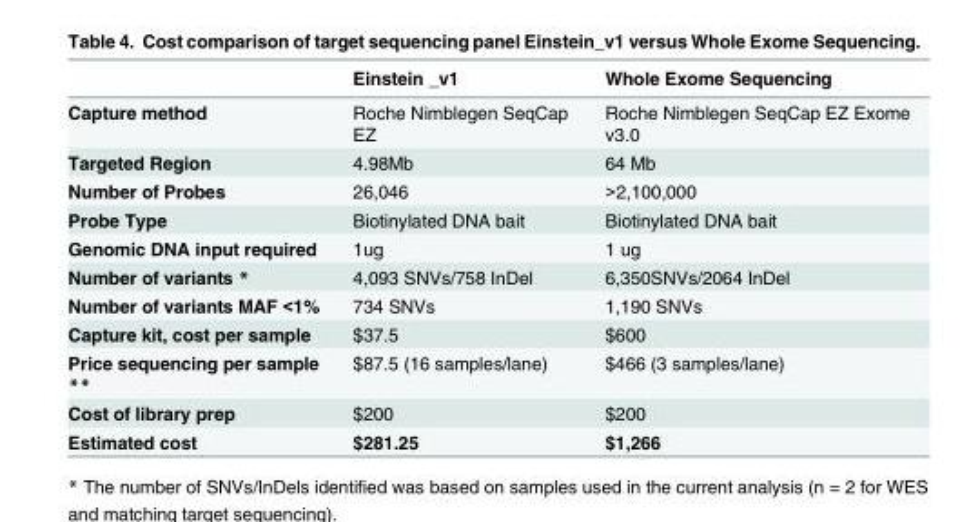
<table><thead><tr><td></td><td>Einstein _v1</td><td>Whole Exome Sequencing</td></tr></thead><tbody><tr><td>Capture method</td><td>Roche Nimblegen SeqCap EZ</td><td>Roche Nimblegen SeqCap EZ Exome v3.0</td></tr><tr><td>Targeted Region</td><td>4.98Mb</td><td>64 Mb</td></tr><tr><td>Number of Probes</td><td>26,046</td><td>&gt;2,100,000</td></tr><tr><td>Probe Type</td><td>Biotinylated DNA bait</td><td>Biotinylated DNA bait</td></tr><tr><td>Genomic DNA input required</td><td>1ug</td><td>1 ug</td></tr><tr><td>Number of variants *</td><td>4,093 SNVs/758 InDel</td><td>6,350SNVs/2064 InDel</td></tr><tr><td>Number of variants MAF &lt;1%</td><td>734 SNVs</td><td>1,190 SNVs</td></tr><tr><td>Capture kit, cost per sample</td><td>$37.5</td><td>$600</td></tr><tr><td>Price sequencing per sample **</td><td>$87.5 (16 samples/lane)</td><td>$466 (3 samples/lane)</td></tr><tr><td>Cost of library prep</td><td>$200</td><td>$200</td></tr><tr><td>Estimated cost</td><td>$281.25</td><td>$1,266</td></tr></tbody></table>